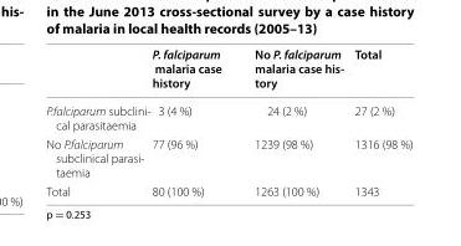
<table><thead><tr><td></td><td>P. falciparum malaria case history</td><td>No P. falciparum malaria case his‑ tory</td><td>Total</td></tr></thead><tbody><tr><td>P.falciparum subclini- cal parasitaemia</td><td>3 (4 %)</td><td>24 (2 %)</td><td>27 (2 %)</td></tr><tr><td>No P.falciparum subclinical parasi- taemia</td><td>77 (96 %)</td><td>1239 (98 %)</td><td>1316 (98 %)</td></tr><tr><td>Total</td><td>80 (100 %)</td><td>1263 (100 %)</td><td>1343</td></tr></tbody></table>